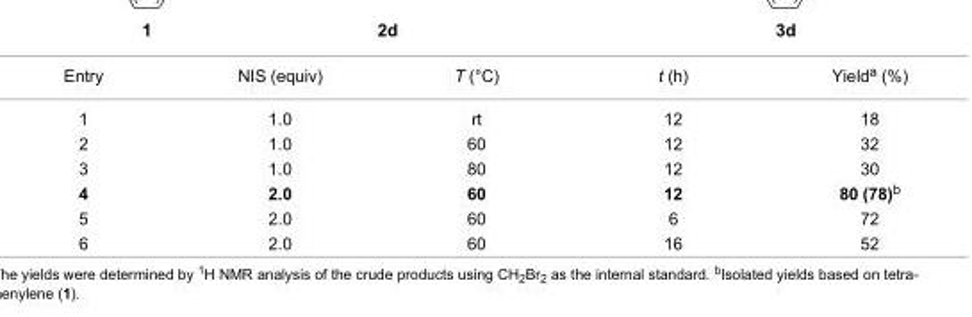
<table><tbody><tr><td>Entry</td><td>NIS (equiv)</td><td>T (°C)</td><td>t (h)</td><td>Yield<sup>a</sup> (%)</td></tr><tr><td>1</td><td>1.0</td><td>rt</td><td>12</td><td>18</td></tr><tr><td>2</td><td>1.0</td><td>60</td><td>12</td><td>32</td></tr><tr><td>3</td><td>1.0</td><td>80</td><td>12</td><td>30</td></tr><tr><td>4</td><td>2.0</td><td>60</td><td>12</td><td>80 (78)<sup>b</sup></td></tr><tr><td>5</td><td>2.0</td><td>60</td><td>6</td><td>72</td></tr><tr><td>6</td><td>2.0</td><td>60</td><td>16</td><td>52</td></tr></tbody></table>